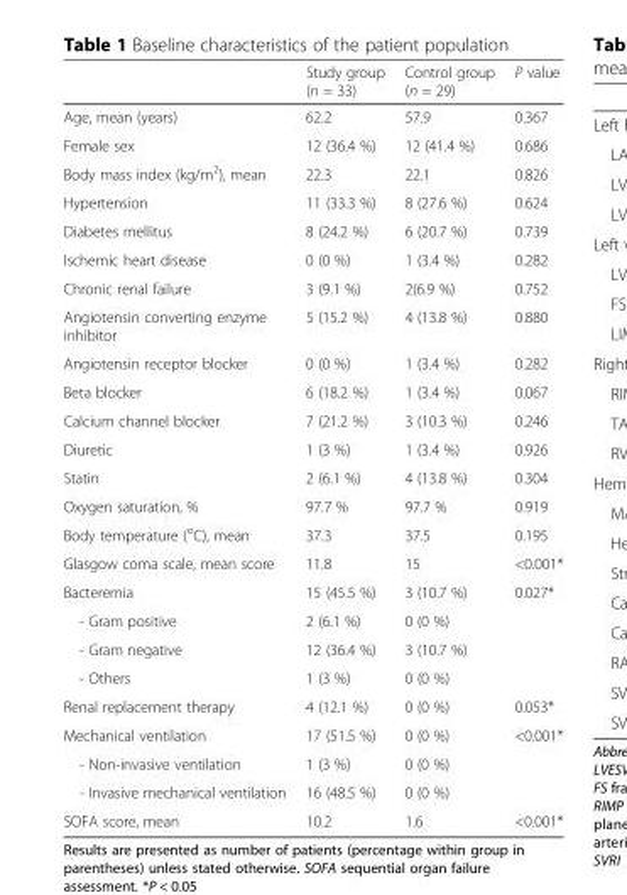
<table><thead><tr><td></td><td>Study group (n = 33)</td><td>Control group (n = 29)</td><td>P value</td></tr></thead><tbody><tr><td>Age, mean (years)</td><td>62.2</td><td>57.9</td><td>0.367</td></tr><tr><td>Female sex</td><td>12 (36.4 %)</td><td>12 (41.4 %)</td><td>0.686</td></tr><tr><td>Body mass index (kg/m<sup>2</sup>), mean</td><td>22.3</td><td>22.1</td><td>0.826</td></tr><tr><td>Hypertension</td><td>11 (33.3 %)</td><td>8 (27.6 %)</td><td>0.624</td></tr><tr><td>Diabetes mellitus</td><td>8 (24.2 %)</td><td>6 (20.7 %)</td><td>0.739</td></tr><tr><td>Ischemic heart disease</td><td>0 (0 %)</td><td>1 (3.4 %)</td><td>0.282</td></tr><tr><td>Chronic renal failure</td><td>3 (9.1 %)</td><td>2(6.9 %)</td><td>0.752</td></tr><tr><td>Angiotensin converting enzyme inhibitor</td><td>5 (15.2 %)</td><td>4 (13.8 %)</td><td>0.880</td></tr><tr><td>Angiotensin receptor blocker</td><td>0 (0 %)</td><td>1 (3.4 %)</td><td>0.282</td></tr><tr><td>Beta blocker</td><td>6 (18.2 %)</td><td>1 (3.4 %)</td><td>0.067</td></tr><tr><td>Calcium channel blocker</td><td>7 (21.2 %)</td><td>3 (10.3 %)</td><td>0.246</td></tr><tr><td>Diuretic</td><td>1 (3 %)</td><td>1 (3.4 %)</td><td>0.926</td></tr><tr><td>Statin</td><td>2 (6.1 %)</td><td>4 (13.8 %)</td><td>0.304</td></tr><tr><td>Oxygen saturation, %</td><td>97.7 %</td><td>97.7 %</td><td>0.919</td></tr><tr><td>Body temperature (<sup>o</sup>C), mean</td><td>37.3</td><td>37.5</td><td>0.195</td></tr><tr><td>Glasgow coma scale, mean score</td><td>11.8</td><td>15</td><td>&lt;0.001*</td></tr><tr><td>Bacteremia</td><td>15 (45.5 %)</td><td>3 (10.7 %)</td><td>0.027*</td></tr><tr><td>- Gram positive</td><td>2 (6.1 %)</td><td>0 (0 %)</td><td></td></tr><tr><td>- Gram negative</td><td>12 (36.4 %)</td><td>3 (10.7 %)</td><td></td></tr><tr><td>- Others</td><td>1 (3 %)</td><td>0 (0 %)</td><td></td></tr><tr><td>Renal replacement therapy</td><td>4 (12.1 %)</td><td>0 (0 %)</td><td>0.053*</td></tr><tr><td>Mechanical ventilation</td><td>17 (51.5 %)</td><td>0 (0 %)</td><td>&lt;0.001*</td></tr><tr><td>- Non-invasive ventilation</td><td>1 (3 %)</td><td>0 (0 %)</td><td></td></tr><tr><td>- Invasive mechanical ventilation</td><td>16 (48.5 %)</td><td>0 (0 %)</td><td></td></tr><tr><td>SOFA score, mean</td><td>10.2</td><td>1.6</td><td>&lt;0.001*</td></tr></tbody></table>